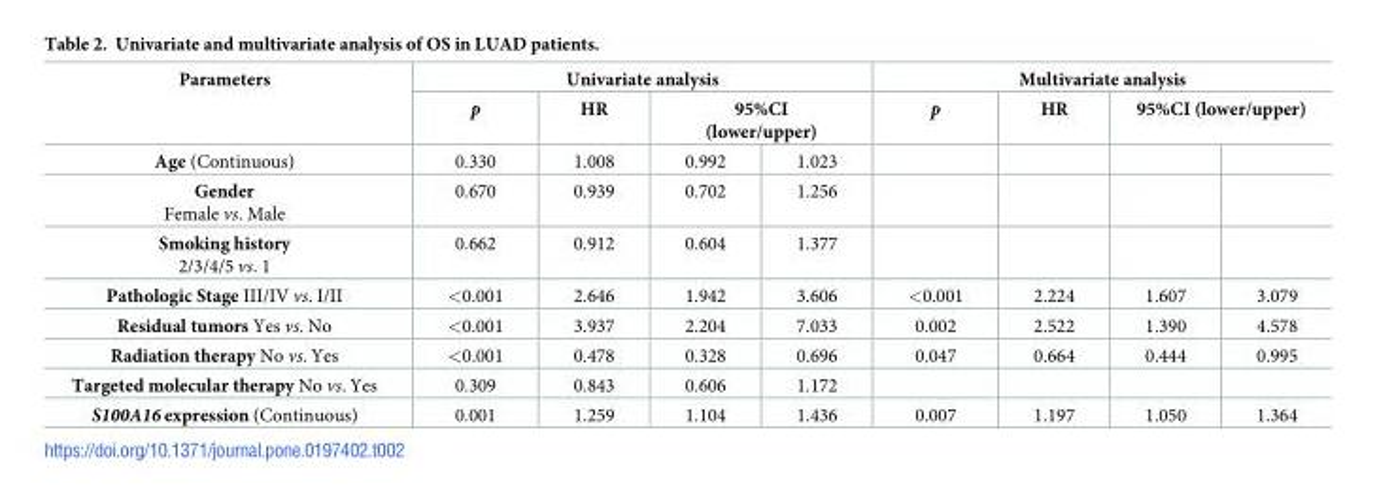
<table><thead><tr><td rowspan="3">Parameters Age (Continuous)</td><td colspan="4">Univariate analysis</td><td colspan="4">Multivariate analysis</td></tr><tr><td rowspan="2">p 0.330</td><td rowspan="2">HR 1.008</td><td colspan="2">95%CI (lower/upper)</td><td rowspan="2">p</td><td rowspan="2">HR</td><td colspan="2">95%CI (lower/upper)</td></tr><tr><td>0.992</td><td>1.023</td><td></td><td></td></tr></thead><tbody><tr><td>Gender Female vs. Male</td><td>0.670</td><td>0.939</td><td>0.702</td><td>1.256</td><td></td><td></td><td></td><td></td></tr><tr><td>Smoking history 2/3/4/5 vs. 1</td><td>0.662</td><td>0.912</td><td>0.604</td><td>1.377</td><td></td><td></td><td></td><td></td></tr><tr><td>Pathologic Stage III/IV vs. I/II</td><td>&lt;0.001</td><td>2.646</td><td>1.942</td><td>3.606</td><td>&lt;0.001</td><td>2.224</td><td>1.607</td><td>3.079</td></tr><tr><td>Residual tumors Yes vs. No</td><td>&lt;0.001</td><td>3.937</td><td>2.204</td><td>7.033</td><td>0.002</td><td>2.522</td><td>1.390</td><td>4.578</td></tr><tr><td>Radiation therapy No vs. Yes</td><td>&lt;0.001</td><td>0.478</td><td>0.328</td><td>0.696</td><td>0.047</td><td>0.664</td><td>0.444</td><td>0.995</td></tr><tr><td>Targeted molecular therapy No vs. Yes</td><td>0.309</td><td>0.843</td><td>0.606</td><td>1.172</td><td></td><td></td><td></td><td></td></tr><tr><td>S100A16 expression (Continuous)</td><td>0.001</td><td>1.259</td><td>1.104</td><td>1.436</td><td>0.007</td><td>1.197</td><td>1.050</td><td>1.364</td></tr></tbody></table>